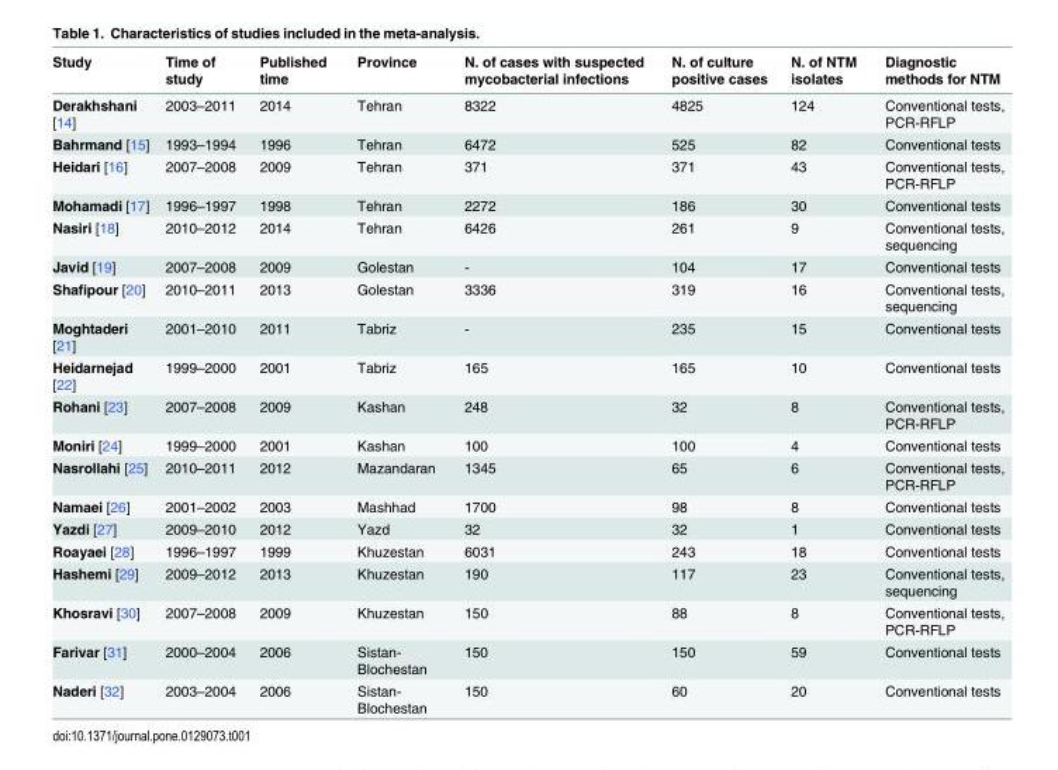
<table><thead><tr><td>Study</td><td>Time of study</td><td>Published time</td><td>Province</td><td>N. of cases with suspected mycobacterial infections</td><td>N. of culture positive cases</td><td>N. of NTM isolates</td><td>Diagnostic methods for NTM</td></tr></thead><tbody><tr><td>Derakhshani [14]</td><td>2003–2011</td><td>2014</td><td>Tehran</td><td>8322</td><td>4825</td><td>124</td><td>Conventional tests, PCR-RFLP</td></tr><tr><td>Bahrmand [15]</td><td>1993–1994</td><td>1996</td><td>Tehran</td><td>6472</td><td>525</td><td>82</td><td>Conventional tests</td></tr><tr><td>Heidari [16]</td><td>2007–2008</td><td>2009</td><td>Tehran</td><td>371</td><td>371</td><td>43</td><td>Conventional tests, PCR-RFLP</td></tr><tr><td>Mohamadi [17]</td><td>1996–1997</td><td>1998</td><td>Tehran</td><td>2272</td><td>186</td><td>30</td><td>Conventional tests</td></tr><tr><td>Nasiri [18]</td><td>2010–2012</td><td>2014</td><td>Tehran</td><td>6426</td><td>261</td><td>9</td><td>Conventional tests, sequencing</td></tr><tr><td>Javid [19]</td><td>2007–2008</td><td>2009</td><td>Golestan</td><td>-</td><td>104</td><td>17</td><td>Conventional tests</td></tr><tr><td>Shafipour [20]</td><td>2010–2011</td><td>2013</td><td>Golestan</td><td>3336</td><td>319</td><td>16</td><td>Conventional tests, sequencing</td></tr><tr><td>Moghtaderi [21]</td><td>2001–2010</td><td>2011</td><td>Tabriz</td><td>-</td><td>235</td><td>15</td><td>Conventional tests</td></tr><tr><td>Heidarnejad [22]</td><td>1999–2000</td><td>2001</td><td>Tabriz</td><td>165</td><td>165</td><td>10</td><td>Conventional tests</td></tr><tr><td>Rohani [23]</td><td>2007–2008</td><td>2009</td><td>Kashan</td><td>248</td><td>32</td><td>8</td><td>Conventional tests, PCR-RFLP</td></tr><tr><td>Moniri [24]</td><td>1999–2000</td><td>2001</td><td>Kashan</td><td>100</td><td>100</td><td>4</td><td>Conventional tests</td></tr><tr><td>Nasrollahi [25]</td><td>2010–2011</td><td>2012</td><td>Mazandaran</td><td>1345</td><td>65</td><td>6</td><td>Conventional tests, PCR-RFLP</td></tr><tr><td>Namaei [26]</td><td>2001–2002</td><td>2003</td><td>Mashhad</td><td>1700</td><td>98</td><td>8</td><td>Conventional tests</td></tr><tr><td>Yazdi [27]</td><td>2009–2010</td><td>2012</td><td>Yazd</td><td>32</td><td>32</td><td>1</td><td>Conventional tests</td></tr><tr><td>Roayaei [28]</td><td>1996–1997</td><td>1999</td><td>Khuzestan</td><td>6031</td><td>243</td><td>18</td><td>Conventional tests</td></tr><tr><td>Hashemi [29]</td><td>2009–2012</td><td>2013</td><td>Khuzestan</td><td>190</td><td>117</td><td>23</td><td>Conventional tests, sequencing</td></tr><tr><td>Khosravi [30]</td><td>2007–2008</td><td>2009</td><td>Khuzestan</td><td>150</td><td>88</td><td>8</td><td>Conventional tests, PCR-RFLP</td></tr><tr><td>Farivar [31]</td><td>2000–2004</td><td>2006</td><td>Sistan- Blochestan</td><td>150</td><td>150</td><td>59</td><td>Conventional tests</td></tr><tr><td>Naderi [32]</td><td>2003–2004</td><td>2006</td><td>Sistan- Blochestan</td><td>150</td><td>60</td><td>20</td><td>Conventional tests</td></tr></tbody></table>